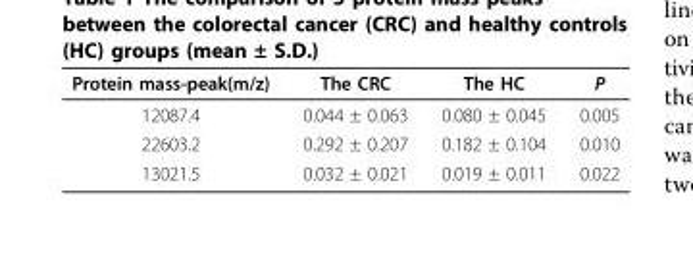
<table><thead><tr><td>Protein mass-peak(m/z)</td><td>The CRC</td><td>The HC</td><td>P</td></tr></thead><tbody><tr><td>12087.4</td><td>0.044 ± 0.063</td><td>0.080 ± 0.045</td><td>0.005</td></tr><tr><td>22603.2</td><td>0.292 ± 0.207</td><td>0.182 ± 0.104</td><td>0.010</td></tr><tr><td>13021.5</td><td>0.032 ± 0.021</td><td>0.019 ± 0.011</td><td>0.022</td></tr></tbody></table>